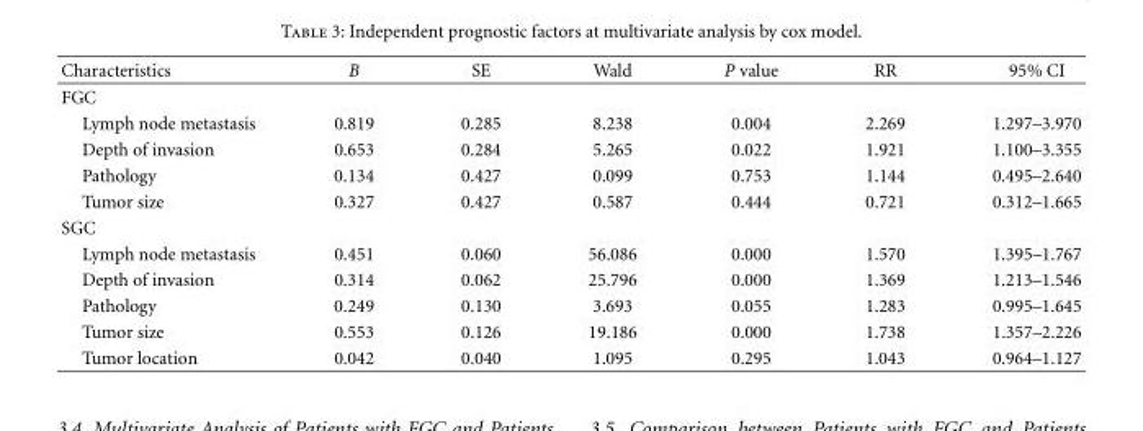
<table><thead><tr><td>Characteristics</td><td>B</td><td>SE</td><td>Wald</td><td>P value</td><td>RR</td><td>95% CI</td></tr></thead><tbody><tr><td colspan="7">FGC</td></tr><tr><td>Lymph node metastasis</td><td>0.819</td><td>0.285</td><td>8.238</td><td>0.004</td><td>2.269</td><td>1.297–3.970</td></tr><tr><td>Depth of invasion</td><td>0.653</td><td>0.284</td><td>5.265</td><td>0.022</td><td>1.921</td><td>1.100–3.355</td></tr><tr><td>Pathology</td><td>0.134</td><td>0.427</td><td>0.099</td><td>0.753</td><td>1.144</td><td>0.495–2.640</td></tr><tr><td>Tumor size</td><td>0.327</td><td>0.427</td><td>0.587</td><td>0.444</td><td>0.721</td><td>0.312–1.665</td></tr><tr><td colspan="7">SGC</td></tr><tr><td>Lymph node metastasis</td><td>0.451</td><td>0.060</td><td>56.086</td><td>0.000</td><td>1.570</td><td>1.395–1.767</td></tr><tr><td>Depth of invasion</td><td>0.314</td><td>0.062</td><td>25.796</td><td>0.000</td><td>1.369</td><td>1.213–1.546</td></tr><tr><td>Pathology</td><td>0.249</td><td>0.130</td><td>3.693</td><td>0.055</td><td>1.283</td><td>0.995–1.645</td></tr><tr><td>Tumor size</td><td>0.553</td><td>0.126</td><td>19.186</td><td>0.000</td><td>1.738</td><td>1.357–2.226</td></tr><tr><td>Tumor location</td><td>0.042</td><td>0.040</td><td>1.095</td><td>0.295</td><td>1.043</td><td>0.964–1.127</td></tr></tbody></table>